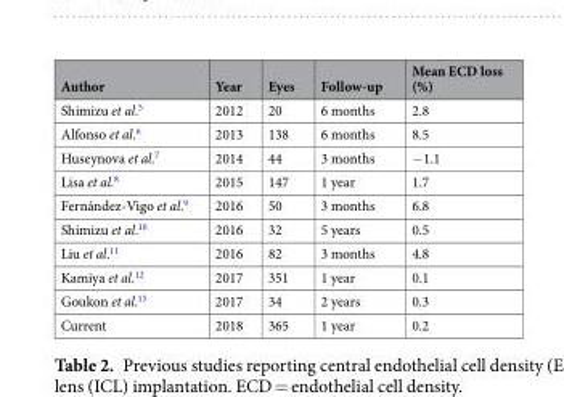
<table><thead><tr><td>Author</td><td>Year</td><td>Eyes</td><td>Follow-up</td><td>Mean ECD loss (%)</td></tr></thead><tbody><tr><td>Shimizu et al.<sup>5</sup></td><td>2012</td><td>20</td><td>6 months</td><td>2.8</td></tr><tr><td>Alfonso et al.<sup>6</sup></td><td>2013</td><td>138</td><td>6 months</td><td>8.5</td></tr><tr><td>Huseynova et al.<sup>7</sup></td><td>2014</td><td>44</td><td>3 months</td><td>−1.1</td></tr><tr><td>Lisa et al.<sup>8</sup></td><td>2015</td><td>147</td><td>1 year</td><td>1.7</td></tr><tr><td>Fernández-Vigo et al.<sup>9</sup></td><td>2016</td><td>50</td><td>3 months</td><td>6.8</td></tr><tr><td>Shimizu et al.<sup>10</sup></td><td>2016</td><td>32</td><td>5 years</td><td>0.5</td></tr><tr><td>Liu et al.<sup>11</sup></td><td>2016</td><td>82</td><td>3 months</td><td>4.8</td></tr><tr><td>Kamiya et al.<sup>12</sup></td><td>2017</td><td>351</td><td>1 year</td><td>0.1</td></tr><tr><td>Goukon et al.<sup>15</sup></td><td>2017</td><td>34</td><td>2 years</td><td>0.3</td></tr><tr><td>Current</td><td>2018</td><td>365</td><td>1 year</td><td>0.2</td></tr></tbody></table>